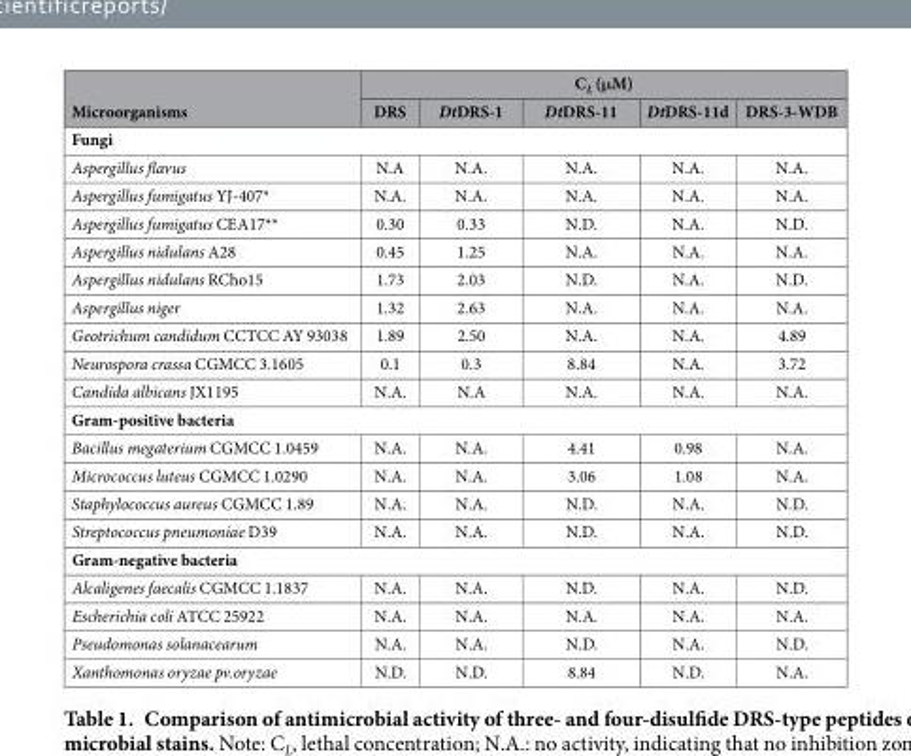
<table><thead><tr><td rowspan="2">Microorganisms</td><td colspan="5">C<sub>L</sub> (μM)</td></tr><tr><td>DRS</td><td>DtDRS-1</td><td>DtDRS-11</td><td>DtDRS-11d</td><td>DRS-3-WDB</td></tr></thead><tbody><tr><td colspan="6">Fungi</td></tr><tr><td>Aspergillus flavus</td><td>N.A</td><td>N.A.</td><td>N.A.</td><td>N.A.</td><td>N.A.</td></tr><tr><td>Aspergillus fumigatus YJ-407*</td><td>N.A.</td><td>N.A.</td><td>N.A.</td><td>N.A.</td><td>N.A.</td></tr><tr><td>Aspergillus fumigatus CEA17**</td><td>0.30</td><td>0.33</td><td>N.D.</td><td>N.A.</td><td>N.D.</td></tr><tr><td>Aspergillus nidulans A28</td><td>0.45</td><td>1.25</td><td>N.A.</td><td>N.A.</td><td>N.A.</td></tr><tr><td>Aspergillus nidulans RCho15</td><td>1.73</td><td>2.03</td><td>N.D.</td><td>N.A.</td><td>N.D.</td></tr><tr><td>Aspergillus niger</td><td>1.32</td><td>2.63</td><td>N.A.</td><td>N.A.</td><td>N.A.</td></tr><tr><td>Geotrichum candidum CCTCC AY 93038</td><td>1.89</td><td>2.50</td><td>N.A.</td><td>N.A.</td><td>4.89</td></tr><tr><td>Neurospora crassa CGMCC 3.1605</td><td>0.1</td><td>0.3</td><td>8.84</td><td>N.A.</td><td>3.72</td></tr><tr><td>Candida albicans JX1195</td><td>N.A.</td><td>N.A</td><td>N.A.</td><td>N.A.</td><td>N.A.</td></tr><tr><td colspan="6">Gram-positive bacteria</td></tr><tr><td>Bacillus megaterium CGMCC 1.0459</td><td>N.A.</td><td>N.A.</td><td>4.41</td><td>0.98</td><td>N.A.</td></tr><tr><td>Micrococcus luteus CGMCC 1.0290</td><td>N.A.</td><td>N.A.</td><td>3.06</td><td>1.08</td><td>N.A.</td></tr><tr><td>Staphylococcus aureus CGMCC 1.89</td><td>N.A.</td><td>N.A.</td><td>N.D.</td><td>N.A.</td><td>N.D.</td></tr><tr><td>Streptococcus pneumoniae D39</td><td>N.A.</td><td>N.A.</td><td>N.D.</td><td>N.A.</td><td>N.D.</td></tr><tr><td colspan="6">Gram-negative bacteria</td></tr><tr><td>Alcaligenes faecalis CGMCC 1.1837</td><td>N.A.</td><td>N.A.</td><td>N.D.</td><td>N.A.</td><td>N.D.</td></tr><tr><td>Escherichia coli ATCC 25922</td><td>N.A.</td><td>N.A.</td><td>N.A.</td><td>N.A.</td><td>N.A.</td></tr><tr><td>Pseudomonas solanacearum</td><td>N.A.</td><td>N.A.</td><td>N.D.</td><td>N.A.</td><td>N.D.</td></tr><tr><td>Xanthomonas oryzae pv.oryzae</td><td>N.D.</td><td>N.D.</td><td>8.84</td><td>N.D.</td><td>N.A.</td></tr></tbody></table>